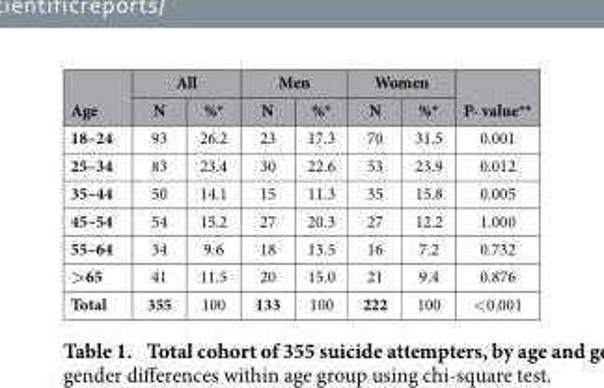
<table><thead><tr><td rowspan="2">Age</td><td colspan="2">All</td><td colspan="2">Men</td><td colspan="2">Women</td><td rowspan="2">P- value**</td></tr><tr><td>N</td><td>%*</td><td>N</td><td>%*</td><td>N</td><td>%*</td></tr></thead><tbody><tr><td>18–24</td><td>93</td><td>26.2</td><td>23</td><td>17.3</td><td>70</td><td>31.5</td><td>0.001</td></tr><tr><td>25–34</td><td>83</td><td>23.4</td><td>30</td><td>22.6</td><td>53</td><td>23.9</td><td>0.012</td></tr><tr><td>35–44</td><td>50</td><td>14.1</td><td>15</td><td>11.3</td><td>35</td><td>15.8</td><td>0.005</td></tr><tr><td>45–54</td><td>54</td><td>15.2</td><td>27</td><td>20.3</td><td>27</td><td>12.2</td><td>1.000</td></tr><tr><td>55–64</td><td>34</td><td>9.6</td><td>18</td><td>13.5</td><td>16</td><td>7.2</td><td>0.732</td></tr><tr><td>&gt;65</td><td>41</td><td>11.5</td><td>20</td><td>15.0</td><td>21</td><td>9.4</td><td>0.876</td></tr><tr><td>Total</td><td>355</td><td>100</td><td>133</td><td>100</td><td>222</td><td>100</td><td>&lt; 0.001</td></tr></tbody></table>